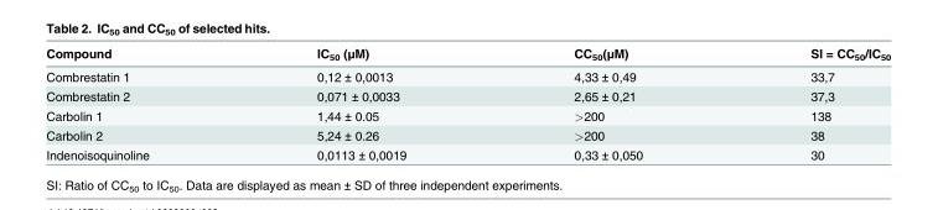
<table><thead><tr><td>Compound</td><td>IC<sub>50</sub> (μM)</td><td>CC<sub>50</sub>(μM)</td><td>SI = CC<sub>50</sub>/IC<sub>50</sub></td></tr></thead><tbody><tr><td>Combrestatin 1</td><td>0,12 ± 0,0013</td><td>4,33 ± 0,49</td><td>33,7</td></tr><tr><td>Combrestatin 2</td><td>0,071 ± 0,0033</td><td>2,65 ± 0,21</td><td>37,3</td></tr><tr><td>Carbolin 1</td><td>1,44 ± 0.05</td><td>&gt;200</td><td>138</td></tr><tr><td>Carbolin 2</td><td>5,24 ± 0.26</td><td>&gt;200</td><td>38</td></tr><tr><td>Indenoisoquinoline</td><td>0,0113 ± 0,0019</td><td>0,33 ± 0,050</td><td>30</td></tr></tbody></table>